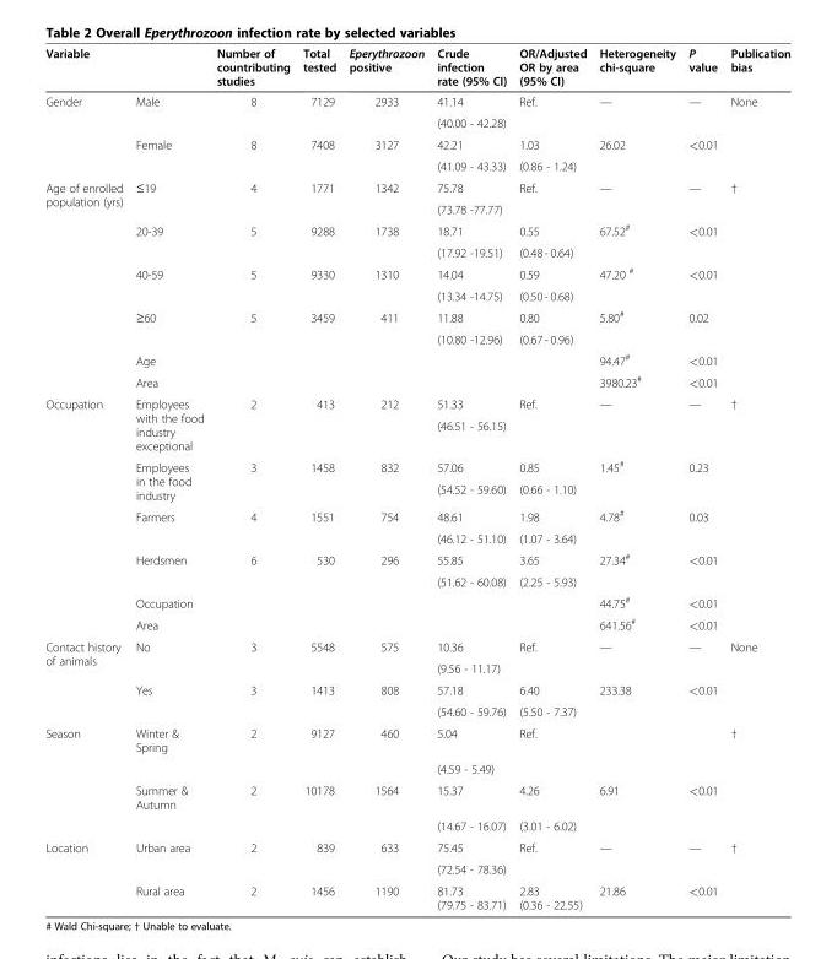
<table><thead><tr><td>Variable</td><td></td><td>Number of countributing studies</td><td>Total tested</td><td>Eperythrozoon positive</td><td>Crude infection rate (95% CI)</td><td>OR/Adjusted OR by area (95% CI)</td><td>Heterogeneity chi-square</td><td>P value</td><td>Publication bias</td></tr></thead><tbody><tr><td rowspan="4">Gender</td><td rowspan="2">Male</td><td>8</td><td>7129</td><td>2933</td><td>41.14</td><td>Ref.</td><td>—</td><td>—</td><td rowspan="4">None</td></tr><tr><td></td><td></td><td></td><td>(40.00 - 42.28)</td><td></td><td></td><td></td></tr><tr><td rowspan="2">Female</td><td>8</td><td>7408</td><td>3127</td><td>42.21</td><td>1.03</td><td>26.02</td><td>&lt;0.01</td></tr><tr><td></td><td></td><td></td><td>(41.09 - 43.33)</td><td>(0.86 - 1.24)</td><td></td><td></td></tr><tr><td rowspan="10">Age of enrolled population (yrs)</td><td rowspan="2">≤19</td><td>4</td><td>1771</td><td>1342</td><td>75.78</td><td>Ref.</td><td>—</td><td>—</td><td rowspan="10">†</td></tr><tr><td></td><td></td><td></td><td>(73.78 -77.77)</td><td></td><td></td><td></td></tr><tr><td rowspan="2">20-39</td><td>5</td><td>9288</td><td>1738</td><td>18.71</td><td>0.55</td><td>67.52<sup>#</sup></td><td>&lt;0.01</td></tr><tr><td></td><td></td><td></td><td>(17.92 -19.51)</td><td>(0.48 - 0.64)</td><td></td><td></td></tr><tr><td rowspan="2">40-59</td><td>5</td><td>9330</td><td>1310</td><td>14.04</td><td>0.59</td><td>47.20 <sup>#</sup></td><td>&lt;0.01</td></tr><tr><td></td><td></td><td></td><td>(13.34 -14.75)</td><td>(0.50 - 0.68)</td><td></td><td></td></tr><tr><td rowspan="2">≥60</td><td>5</td><td>3459</td><td>411</td><td>11.88</td><td>0.80</td><td>5.80<sup>#</sup></td><td>0.02</td></tr><tr><td></td><td></td><td></td><td>(10.80 -12.96)</td><td>(0.67 - 0.96)</td><td></td><td></td></tr><tr><td>Age</td><td></td><td></td><td></td><td></td><td></td><td>94.47<sup>#</sup></td><td>&lt;0.01</td></tr><tr><td>Area</td><td></td><td></td><td></td><td></td><td></td><td>3980.23<sup>#</sup></td><td>&lt;0.01</td></tr><tr><td rowspan="10">Occupation</td><td rowspan="2">Employees with the food industry exceptional</td><td>2</td><td>413</td><td>212</td><td>51.33</td><td>Ref.</td><td>—</td><td>—</td><td rowspan="10">†</td></tr><tr><td></td><td></td><td></td><td>(46.51 - 56.15)</td><td></td><td></td><td></td></tr><tr><td rowspan="2">Employees in the food industry</td><td>3</td><td>1458</td><td>832</td><td>57.06</td><td>0.85</td><td>1.45<sup>#</sup></td><td>0.23</td></tr><tr><td></td><td></td><td></td><td>(54.52 - 59.60)</td><td>(0.66 - 1.10)</td><td></td><td></td></tr><tr><td>Farmers</td><td>4</td><td>1551</td><td>754</td><td>48.61</td><td>1.98</td><td>4.78<sup>#</sup></td><td>0.03</td></tr><tr><td></td><td></td><td></td><td></td><td>(46.12 - 51.10)</td><td>(1.07 - 3.64)</td><td></td><td></td></tr><tr><td>Herdsmen</td><td>6</td><td>530</td><td>296</td><td>55.85</td><td>3.65</td><td>27.34<sup>#</sup></td><td>&lt;0.01</td></tr><tr><td></td><td></td><td></td><td></td><td>(51.62 - 60.08)</td><td>(2.25 - 5.93)</td><td></td><td></td></tr><tr><td>Occupation</td><td></td><td></td><td></td><td></td><td></td><td>44.75<sup>#</sup></td><td>&lt;0.01</td></tr><tr><td>Area</td><td></td><td></td><td></td><td></td><td></td><td>641.56<sup>#</sup></td><td>&lt;0.01</td></tr><tr><td rowspan="4">Contact history of animals</td><td>No</td><td>3</td><td>5548</td><td>575</td><td>10.36</td><td>Ref.</td><td>—</td><td>—</td><td rowspan="3">None</td></tr><tr><td></td><td></td><td></td><td></td><td>(9.56 - 11.17)</td><td></td><td></td><td></td></tr><tr><td>Yes</td><td>3</td><td>1413</td><td>808</td><td>57.18</td><td>6.40</td><td>233.38</td><td>&lt;0.01</td></tr><tr><td></td><td></td><td></td><td></td><td>(54.60 - 59.76)</td><td>(5.50 - 7.37)</td><td></td><td></td><td></td></tr><tr><td rowspan="4">Season</td><td>Winter &amp; Spring</td><td>2</td><td>9127</td><td>460</td><td>5.04</td><td>Ref.</td><td></td><td></td><td>†</td></tr><tr><td></td><td></td><td></td><td></td><td>(4.59 - 5.49)</td><td></td><td></td><td></td><td rowspan="2"></td></tr><tr><td>Summer &amp; Autumn</td><td>2</td><td>10178</td><td>1564</td><td>15.37</td><td>4.26</td><td>6.91</td><td>&lt;0.01</td></tr><tr><td></td><td></td><td></td><td></td><td>(14.67 - 16.07)</td><td>(3.01 - 6.02)</td><td></td><td></td><td></td></tr><tr><td rowspan="3">Location</td><td>Urban area</td><td>2</td><td>839</td><td>633</td><td>75.45</td><td>Ref.</td><td>—</td><td>—</td><td>†</td></tr><tr><td></td><td></td><td></td><td></td><td>(72.54 - 78.36)</td><td></td><td></td><td></td><td rowspan="2"></td></tr><tr><td>Rural area</td><td>2</td><td>1456</td><td>1190</td><td>81.73 (79.75 - 83.71)</td><td>2.83 (0.36 - 22.55)</td><td>21.86</td><td>&lt;0.01</td></tr></tbody></table>